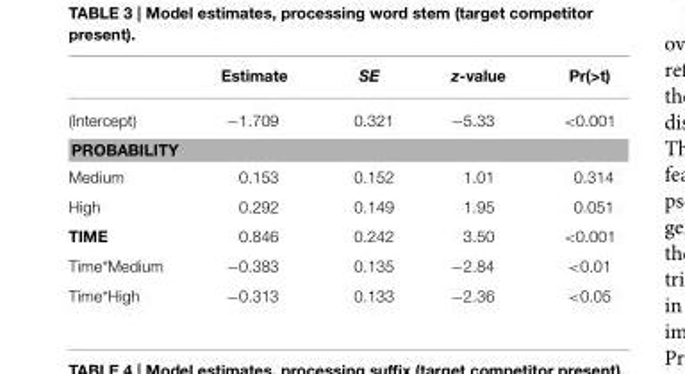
<table><thead><tr><td></td><td>Estimate</td><td>SE</td><td>z-value</td><td>Pr(&gt;t)</td></tr></thead><tbody><tr><td>(Intercept)</td><td>−1.709</td><td>0.321</td><td>−5.33</td><td>&lt;0.001</td></tr><tr><td colspan="5">PROBABILITY</td></tr><tr><td>Medium</td><td>0.153</td><td>0.152</td><td>1.01</td><td>0.314</td></tr><tr><td>High</td><td>0.292</td><td>0.149</td><td>1.95</td><td>0.051</td></tr><tr><td>TIME</td><td>0.846</td><td>0.242</td><td>3.50</td><td>&lt;0.001</td></tr><tr><td>Time*Medium</td><td>−0.383</td><td>0.135</td><td>−2.84</td><td>&lt;0.01</td></tr><tr><td>Time*High</td><td>−0.313</td><td>0.133</td><td>−2.36</td><td>&lt;0.05</td></tr></tbody></table>